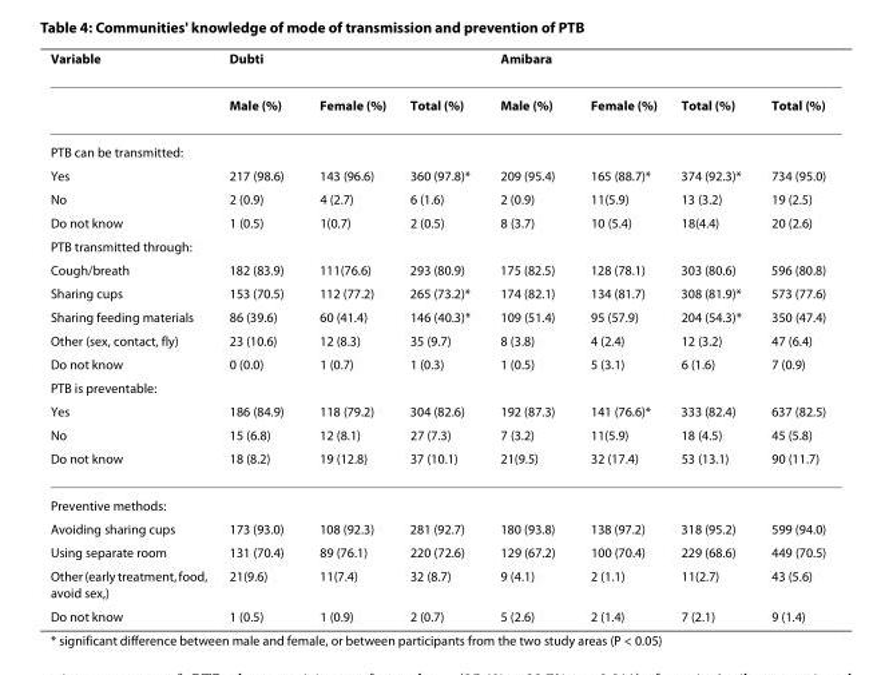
<table><thead><tr><td rowspan="2">Variable</td><td colspan="3">Dubti</td><td colspan="3">Amibara</td><td rowspan="2">Total (%)</td></tr><tr><td>Male (%)</td><td>Female (%)</td><td>Total (%)</td><td>Male (%)</td><td>Female (%)</td><td>Total (%)</td></tr></thead><tbody><tr><td colspan="8">PTB can be transmitted:</td></tr><tr><td>Yes</td><td>217 (98.6)</td><td>143 (96.6)</td><td>360 (97.8)*</td><td>209 (95.4)</td><td>165 (88.7)*</td><td>374 (92.3)*</td><td>734 (95.0)</td></tr><tr><td>No</td><td>2 (0.9)</td><td>4 (2.7)</td><td>6 (1.6)</td><td>2 (0.9)</td><td>11(5.9)</td><td>13 (3.2)</td><td>19 (2.5)</td></tr><tr><td>Do not know</td><td>1 (0.5)</td><td>1(0.7)</td><td>2 (0.5)</td><td>8 (3.7)</td><td>10 (5.4)</td><td>18(4.4)</td><td>20 (2.6)</td></tr><tr><td colspan="8">PTB transmitted through:</td></tr><tr><td>Cough/breath</td><td>182 (83.9)</td><td>111(76.6)</td><td>293 (80.9)</td><td>175 (82.5)</td><td>128 (78.1)</td><td>303 (80.6)</td><td>596 (80.8)</td></tr><tr><td>Sharing cups</td><td>153 (70.5)</td><td>112 (77.2)</td><td>265 (73.2)*</td><td>174 (82.1)</td><td>134 (81.7)</td><td>308 (81.9)*</td><td>573 (77.6)</td></tr><tr><td>Sharing feeding materials</td><td>86 (39.6)</td><td>60 (41.4)</td><td>146 (40.3)*</td><td>109 (51.4)</td><td>95 (57.9)</td><td>204 (54.3)*</td><td>350 (47.4)</td></tr><tr><td>Other (sex, contact, fly)</td><td>23 (10.6)</td><td>12 (8.3)</td><td>35 (9.7)</td><td>8 (3.8)</td><td>4 (2.4)</td><td>12 (3.2)</td><td>47 (6.4)</td></tr><tr><td>Do not know</td><td>0 (0.0)</td><td>1 (0.7)</td><td>1 (0.3)</td><td>1 (0.5)</td><td>5 (3.1)</td><td>6 (1.6)</td><td>7 (0.9)</td></tr><tr><td colspan="8">PTB is preventable:</td></tr><tr><td>Yes</td><td>186 (84.9)</td><td>118 (79.2)</td><td>304 (82.6)</td><td>192 (87.3)</td><td>141 (76.6)*</td><td>333 (82.4)</td><td>637 (82.5)</td></tr><tr><td>No</td><td>15 (6.8)</td><td>12 (8.1)</td><td>27 (7.3)</td><td>7 (3.2)</td><td>11(5.9)</td><td>18 (4.5)</td><td>45 (5.8)</td></tr><tr><td>Do not know</td><td>18 (8.2)</td><td>19 (12.8)</td><td>37 (10.1)</td><td>21(9.5)</td><td>32 (17.4)</td><td>53 (13.1)</td><td>90 (11.7)</td></tr><tr><td colspan="8">Preventive methods:</td></tr><tr><td>Avoiding sharing cups</td><td>173 (93.0)</td><td>108 (92.3)</td><td>281 (92.7)</td><td>180 (93.8)</td><td>138 (97.2)</td><td>318 (95.2)</td><td>599 (94.0)</td></tr><tr><td>Using separate room</td><td>131 (70.4)</td><td>89 (76.1)</td><td>220 (72.6)</td><td>129 (67.2)</td><td>100 (70.4)</td><td>229 (68.6)</td><td>449 (70.5)</td></tr><tr><td>Other (early treatment, food, avoid sex,)</td><td>21(9.6)</td><td>11(7.4)</td><td>32 (8.7)</td><td>9 (4.1)</td><td>2 (1.1)</td><td>11(2.7)</td><td>43 (5.6)</td></tr><tr><td>Do not know</td><td>1 (0.5)</td><td>1 (0.9)</td><td>2 (0.7)</td><td>5 (2.6)</td><td>2 (1.4)</td><td>7 (2.1)</td><td>9 (1.4)</td></tr></tbody></table>